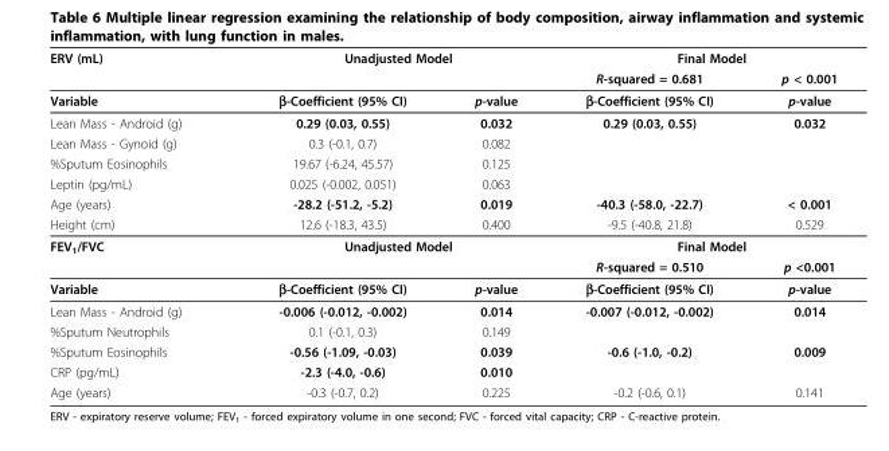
<table><thead><tr><td rowspan="2">ERV (mL)</td><td colspan="2">Unadjusted Model</td><td colspan="2">Final Model</td></tr><tr><td></td><td></td><td>R-squared = 0.681</td><td>p &lt; 0.001</td></tr></thead><tbody><tr><td>Variable</td><td>β-Coefficient (95% CI)</td><td>p-value</td><td>β-Coefficient (95% CI)</td><td>p-value</td></tr><tr><td>Lean Mass - Android (g)</td><td>0.29 (0.03, 0.55)</td><td>0.032</td><td>0.29 (0.03, 0.55)</td><td>0.032</td></tr><tr><td>Lean Mass - Gynoid (g)</td><td>0.3 (-0.1, 0.7)</td><td>0.082</td><td></td><td></td></tr><tr><td>%Sputum Eosinophils</td><td>19.67 (-6.24, 45.57)</td><td>0.125</td><td></td><td></td></tr><tr><td>Leptin (pg/mL)</td><td>0.025 (-0.002, 0.051)</td><td>0.063</td><td></td><td></td></tr><tr><td>Age (years)</td><td>-28.2 (-51.2, -5.2)</td><td>0.019</td><td>-40.3 (-58.0, -22.7)</td><td>&lt; 0.001</td></tr><tr><td>Height (cm)</td><td>12.6 (-18.3, 43.5)</td><td>0.400</td><td>-9.5 (-40.8, 21.8)</td><td>0.529</td></tr><tr><td rowspan="2">FEV<sub>1</sub>/FVC</td><td colspan="2">Unadjusted Model</td><td colspan="2">Final Model</td></tr><tr><td></td><td></td><td>R-squared = 0.510</td><td>p &lt;0.001</td></tr><tr><td>Variable</td><td>β-Coefficient (95% CI)</td><td>p-value</td><td>β-Coefficient (95% CI)</td><td>p-value</td></tr><tr><td>Lean Mass - Android (g)</td><td>-0.006 (-0.012, -0.002)</td><td>0.014</td><td>-0.007 (-0.012, -0.002)</td><td>0.014</td></tr><tr><td>%Sputum Neutrophils</td><td>0.1 (-0.1, 0.3)</td><td>0.149</td><td></td><td></td></tr><tr><td>%Sputum Eosinophils</td><td>-0.56 (-1.09, -0.03)</td><td>0.039</td><td>-0.6 (-1.0, -0.2)</td><td>0.009</td></tr><tr><td>CRP (pg/mL)</td><td>-2.3 (-4.0, -0.6)</td><td>0.010</td><td></td><td></td></tr><tr><td>Age (years)</td><td>-0.3 (-0.7, 0.2)</td><td>0.225</td><td>-0.2 (-0.6, 0.1)</td><td>0.141</td></tr></tbody></table>